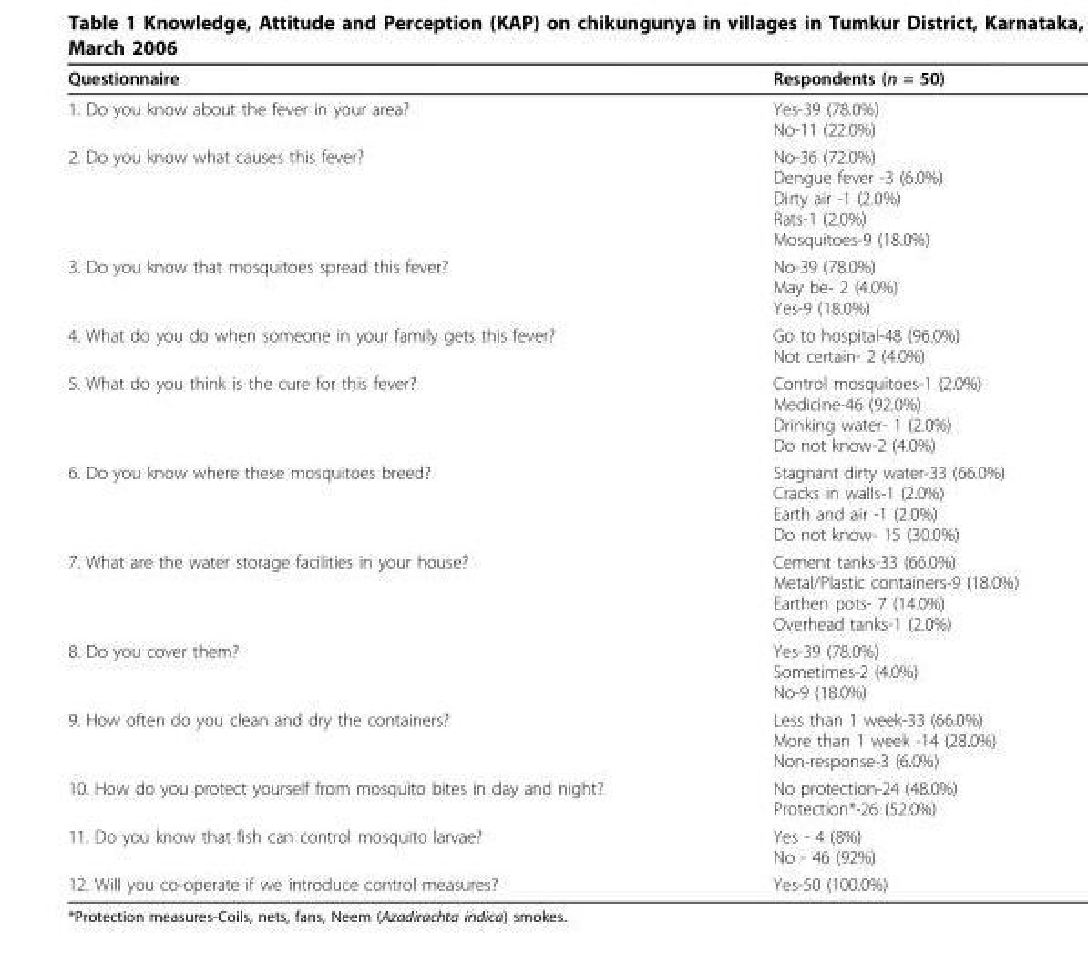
<table><thead><tr><td>Questionnaire</td><td>Respondents (n = 50)</td></tr></thead><tbody><tr><td>1. Do you know about the fever in your area?</td><td>Yes-39 (78.0%) No-11 (22.0%)</td></tr><tr><td>2. Do you know what causes this fever?</td><td>No-36 (72.0%) Dengue fever -3 (6.0%) Dirty air -1 (2.0%) Rats-1 (2.0%) Mosquitoes-9 (18.0%)</td></tr><tr><td>3. Do you know that mosquitoes spread this fever?</td><td>No-39 (78.0%) May be- 2 (4.0%) Yes-9 (18.0%)</td></tr><tr><td>4. What do you do when someone in your family gets this fever?</td><td>Go to hospital-48 (96.0%) Not certain- 2 (4.0%)</td></tr><tr><td>5. What do you think is the cure for this fever?</td><td>Control mosquitoes-1 (2.0%) Medicine-46 (92.0%) Drinking water- 1 (2.0%) Do not know-2 (4.0%)</td></tr><tr><td>6. Do you know where these mosquitoes breed?</td><td>Stagnant dirty water-33 (66.0%) Cracks in walls-1 (2.0%) Earth and air -1 (2.0%) Do not know- 15 (30.0%)</td></tr><tr><td>7. What are the water storage facilities in your house?</td><td>Cement tanks-33 (66.0%) Metal/Plastic containers-9 (18.0%) Earthen pots- 7 (14.0%) Overhead tanks-1 (2.0%)</td></tr><tr><td>8. Do you cover them?</td><td>Yes-39 (78.0%) Sometimes-2 (4.0%) No-9 (18.0%)</td></tr><tr><td>9. How often do you clean and dry the containers?</td><td>Less than 1 week-33 (66.0%) More than 1 week -14 (28.0%) Non-response-3 (6.0%)</td></tr><tr><td>10. How do you protect yourself from mosquito bites in day and night?</td><td>No protection-24 (48.0%) Protection*-26 (52.0%)</td></tr><tr><td>11. Do you know that fish can control mosquito larvae?</td><td>Yes - 4 (8%) No - 46 (92%)</td></tr><tr><td>12. Will you co-operate if we introduce control measures?</td><td>Yes-50 (100.0%)</td></tr></tbody></table>